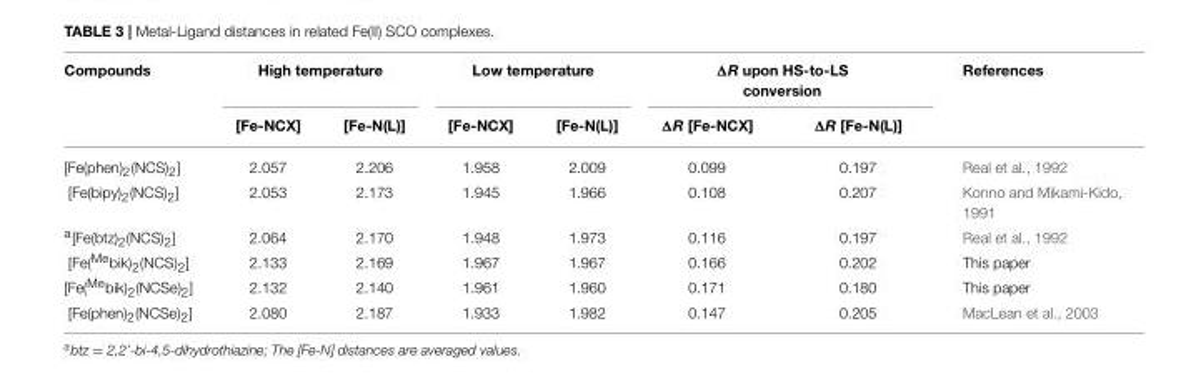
<table><thead><tr><td rowspan="2">Compounds</td><td colspan="2">High temperature</td><td colspan="2">Low temperature</td><td colspan="2">ΔR upon HS-to-LS conversion</td><td rowspan="2">References</td></tr><tr><td>[Fe-NCX]</td><td>[Fe-N(L)]</td><td>[Fe-NCX]</td><td>[Fe-N(L)]</td><td>ΔR [Fe-NCX]</td><td>ΔR [Fe-N(L)]</td></tr></thead><tbody><tr><td>[Fe(phen)<sub>2</sub>(NCS)<sub>2</sub>]</td><td>2.057</td><td>2.206</td><td>1.958</td><td>2.009</td><td>0.099</td><td>0.197</td><td>Real et al., 1992</td></tr><tr><td>[Fe(bipy)<sub>2</sub>(NCS)<sub>2</sub>]</td><td>2.053</td><td>2.173</td><td>1.945</td><td>1.966</td><td>0.108</td><td>0.207</td><td>Konno and Mikami-Kido, 1991</td></tr><tr><td><sup>a</sup>[Fe(btz)<sub>2</sub>(NCS)<sub>2</sub>]</td><td>2.064</td><td>2.170</td><td>1.948</td><td>1.973</td><td>0.116</td><td>0.197</td><td>Real et al., 1992</td></tr><tr><td>[Fe(<sup>Me</sup>bik)<sub>2</sub>(NCS)<sub>2</sub>]</td><td>2.133</td><td>2.169</td><td>1.967</td><td>1.967</td><td>0.166</td><td>0.202</td><td>This paper</td></tr><tr><td>[Fe(<sup>Me</sup>bik)<sub>2</sub>(NCSe)<sub>2</sub>]</td><td>2.132</td><td>2.140</td><td>1.961</td><td>1.960</td><td>0.171</td><td>0.180</td><td>This paper</td></tr><tr><td>[Fe(phen)<sub>2</sub>(NCSe)<sub>2</sub>]</td><td>2.080</td><td>2.187</td><td>1.933</td><td>1.982</td><td>0.147</td><td>0.205</td><td>MacLean et al., 2003</td></tr></tbody></table>